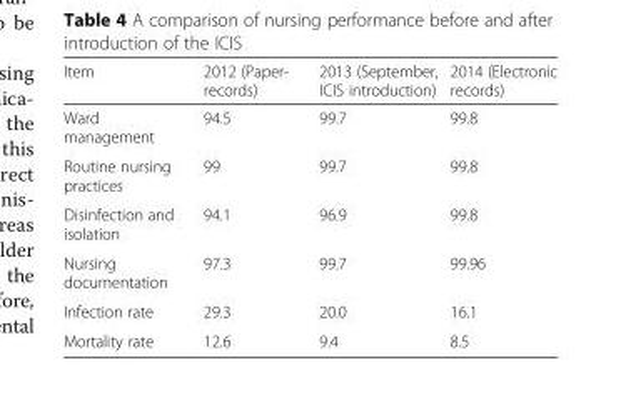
<table><thead><tr><td>Item</td><td>2012 (Paper- records)</td><td>2013 (September, ICIS introduction)</td><td>2014 (Electronic records)</td></tr></thead><tbody><tr><td>Ward management</td><td>94.5</td><td>99.7</td><td>99.8</td></tr><tr><td>Routine nursing practices</td><td>99</td><td>99.7</td><td>99.8</td></tr><tr><td>Disinfection and isolation</td><td>94.1</td><td>96.9</td><td>99.8</td></tr><tr><td>Nursing documentation</td><td>97.3</td><td>99.7</td><td>99.96</td></tr><tr><td>Infection rate</td><td>29.3</td><td>20.0</td><td>16.1</td></tr><tr><td>Mortality rate</td><td>12.6</td><td>9.4</td><td>8.5</td></tr></tbody></table>